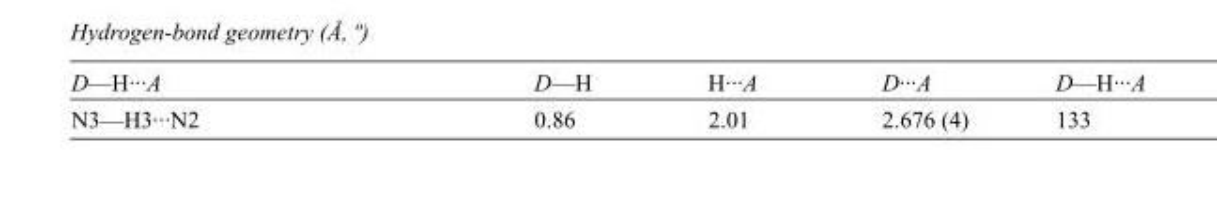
<table><tbody><tr><td>D—H···A</td><td>D—H</td><td>H···A</td><td>D···A</td><td>D—H···A</td></tr><tr><td>N3—H3···N2</td><td>0.86</td><td>2.01</td><td>2.676 (4)</td><td>133</td></tr></tbody></table>